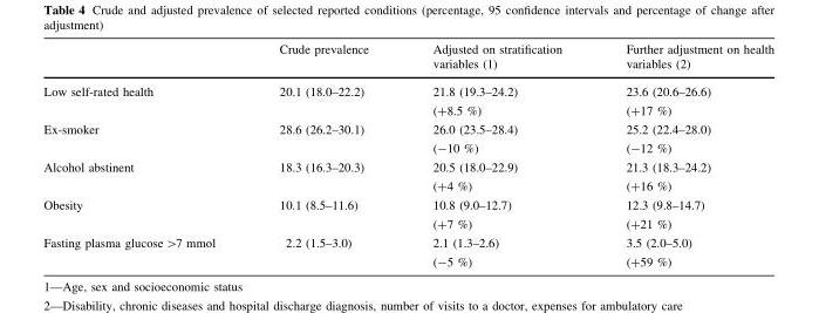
<table><thead><tr><td></td><td>Crude prevalence</td><td>Adjusted on stratification variables (1)</td><td>Further adjustment on health variables (2)</td></tr></thead><tbody><tr><td>Low self-rated health</td><td>20.1 (18.0–22.2)</td><td>21.8 (19.3–24.2) (+8.5 %)</td><td>23.6 (20.6–26.6) (+17 %)</td></tr><tr><td>Ex-smoker</td><td>28.6 (26.2–30.1)</td><td>26.0 (23.5–28.4) (-10 %)</td><td>25.2 (22.4–28.0) (-12 %)</td></tr><tr><td>Alcohol abstinent</td><td>18.3 (16.3–20.3)</td><td>20.5 (18.0–22.9) (+4 %)</td><td>21.3 (18.3–24.2) (+16 %)</td></tr><tr><td>Obesity</td><td>10.1 (8.5–11.6)</td><td>10.8 (9.0–12.7) (+7 %)</td><td>12.3 (9.8–14.7) (+21 %)</td></tr><tr><td>Fasting plasma glucose &gt;7 mmol</td><td>2.2 (1.5–3.0)</td><td>2.1 (1.3–2.6) (-5 %)</td><td>3.5 (2.0–5.0) (+59 %)</td></tr></tbody></table>